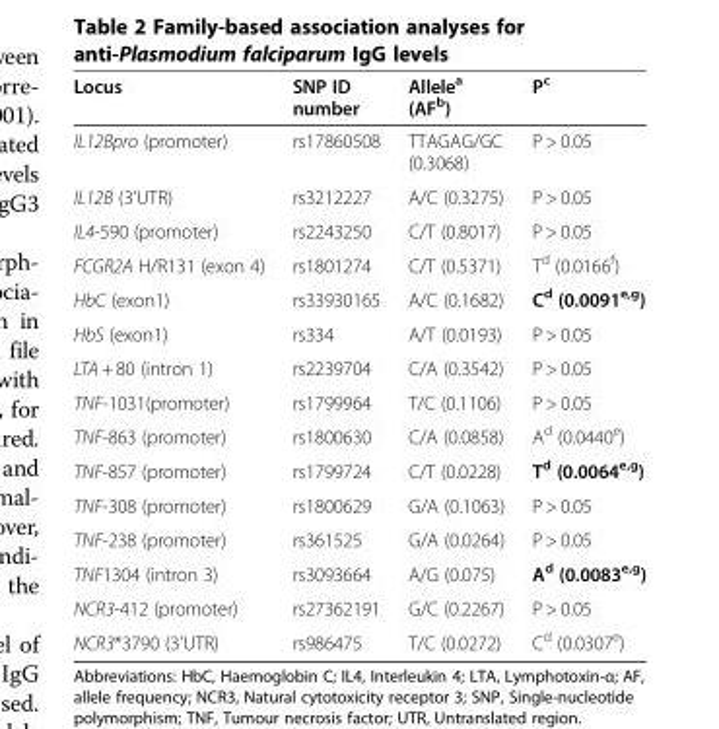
<table><thead><tr><td>Locus</td><td>SNP ID number</td><td>Allele<sup>a</sup> (AF<sup>b</sup>)</td><td>P<sup>c</sup></td></tr></thead><tbody><tr><td>IL12Bpro (promoter)</td><td>rs17860508</td><td>TTAGAG/GC (0.3068)</td><td>P &gt; 0.05</td></tr><tr><td>IL12B (3&#x27;UTR)</td><td>rs3212227</td><td>A/C (0.3275)</td><td>P &gt; 0.05</td></tr><tr><td>IL4-590 (promoter)</td><td>rs2243250</td><td>C/T (0.8017)</td><td>P &gt; 0.05</td></tr><tr><td>FCGR2A H/R131 (exon 4)</td><td>rs1801274</td><td>C/T (0.5371)</td><td>T<sup>d</sup> (0.0166<sup>f</sup>)</td></tr><tr><td>HbC (exon1)</td><td>rs33930165</td><td>A/C (0.1682)</td><td>C<sup>d</sup> (0.0091<sup>e,g</sup>)</td></tr><tr><td>HbS (exon1)</td><td>rs334</td><td>A/T (0.0193)</td><td>P &gt; 0.05</td></tr><tr><td>LTA + 80 (intron 1)</td><td>rs2239704</td><td>C/A (0.3542)</td><td>P &gt; 0.05</td></tr><tr><td>TNF-1031(promoter)</td><td>rs1799964</td><td>T/C (0.1106)</td><td>P &gt; 0.05</td></tr><tr><td>TNF-863 (promoter)</td><td>rs1800630</td><td>C/A (0.0858)</td><td>A<sup>d</sup> (0.0440<sup>e</sup>)</td></tr><tr><td>TNF-857 (promoter)</td><td>rs1799724</td><td>C/T (0.0228)</td><td>T<sup>d</sup> (0.0064<sup>e,g</sup>)</td></tr><tr><td>TNF-308 (promoter)</td><td>rs1800629</td><td>G/A (0.1063)</td><td>P &gt; 0.05</td></tr><tr><td>TNF-238 (promoter)</td><td>rs361525</td><td>G/A (0.0264)</td><td>P &gt; 0.05</td></tr><tr><td>TNF1304 (intron 3)</td><td>rs3093664</td><td>A/G (0.075)</td><td>A<sup>d</sup> (0.0083<sup>e,g</sup>)</td></tr><tr><td>NCR3-412 (promoter)</td><td>rs27362191</td><td>G/C (0.2267)</td><td>P &gt; 0.05</td></tr><tr><td>NCR3*3790 (3&#x27;UTR)</td><td>rs986475</td><td>T/C (0.0272)</td><td>C<sup>d</sup> (0.0307<sup>e</sup>)</td></tr></tbody></table>